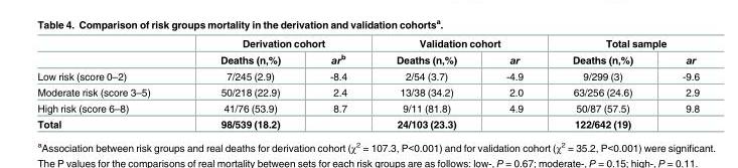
<table><thead><tr><td rowspan="2"></td><td colspan="2">Derivation cohort</td><td colspan="2">Validation cohort</td><td colspan="2">Total sample</td></tr><tr><td>Deaths (n,%)</td><td>ar<sup>b</sup></td><td>Deaths (n,%)</td><td>ar</td><td>Deaths (n,%)</td><td>ar</td></tr></thead><tbody><tr><td>Low risk (score 0–2)</td><td>7/245 (2.9)</td><td>-8.4</td><td>2/54 (3.7)</td><td>-4.9</td><td>9/299 (3)</td><td>-9.6</td></tr><tr><td>Moderate risk (score 3–5)</td><td>50/218 (22.9)</td><td>2.4</td><td>13/38 (34.2)</td><td>2.0</td><td>63/256 (24.6)</td><td>2.9</td></tr><tr><td>High risk (score 6–8)</td><td>41/76 (53.9)</td><td>8.7</td><td>9/11 (81.8)</td><td>4.9</td><td>50/87 (57.5)</td><td>9.8</td></tr><tr><td>Total</td><td>98/539 (18.2)</td><td></td><td>24/103 (23.3)</td><td></td><td>122/642 (19)</td><td></td></tr></tbody></table>